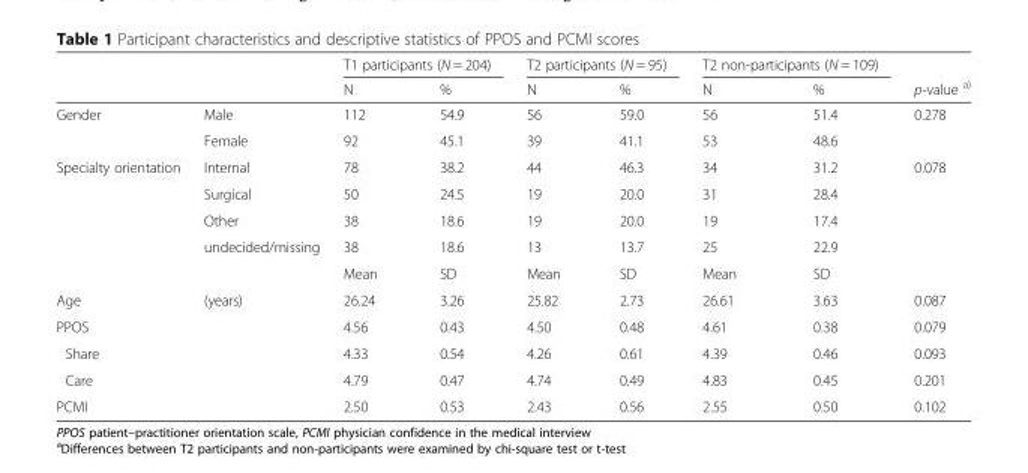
<table><thead><tr><td rowspan="2"></td><td rowspan="2"></td><td colspan="2">T1 participants (N = 204)</td><td colspan="2">T2 participants (N = 95)</td><td colspan="2">T2 non-participants (N = 109)</td><td rowspan="2">p-value <sup>a)</sup></td></tr><tr><td>N</td><td>%</td><td>N</td><td>%</td><td>N</td><td>%</td></tr></thead><tbody><tr><td rowspan="2">Gender</td><td>Male</td><td>112</td><td>54.9</td><td>56</td><td>59.0</td><td>56</td><td>51.4</td><td rowspan="2">0.278</td></tr><tr><td>Female</td><td>92</td><td>45.1</td><td>39</td><td>41.1</td><td>53</td><td>48.6</td></tr><tr><td rowspan="5">Specialty orientation</td><td>Internal</td><td>78</td><td>38.2</td><td>44</td><td>46.3</td><td>34</td><td>31.2</td><td rowspan="4">0.078</td></tr><tr><td>Surgical</td><td>50</td><td>24.5</td><td>19</td><td>20.0</td><td>31</td><td>28.4</td></tr><tr><td>Other</td><td>38</td><td>18.6</td><td>19</td><td>20.0</td><td>19</td><td>17.4</td></tr><tr><td>undecided/missing</td><td>38</td><td>18.6</td><td>13</td><td>13.7</td><td>25</td><td>22.9</td></tr><tr><td></td><td>Mean</td><td>SD</td><td>Mean</td><td>SD</td><td>Mean</td><td>SD</td><td></td></tr><tr><td>Age</td><td>(years)</td><td>26.24</td><td>3.26</td><td>25.82</td><td>2.73</td><td>26.61</td><td>3.63</td><td>0.087</td></tr><tr><td>PPOS</td><td></td><td>4.56</td><td>0.43</td><td>4.50</td><td>0.48</td><td>4.61</td><td>0.38</td><td>0.079</td></tr><tr><td>Share</td><td></td><td>4.33</td><td>0.54</td><td>4.26</td><td>0.61</td><td>4.39</td><td>0.46</td><td>0.093</td></tr><tr><td>Care</td><td></td><td>4.79</td><td>0.47</td><td>4.74</td><td>0.49</td><td>4.83</td><td>0.45</td><td>0.201</td></tr><tr><td>PCMI</td><td></td><td>2.50</td><td>0.53</td><td>2.43</td><td>0.56</td><td>2.55</td><td>0.50</td><td>0.102</td></tr></tbody></table>